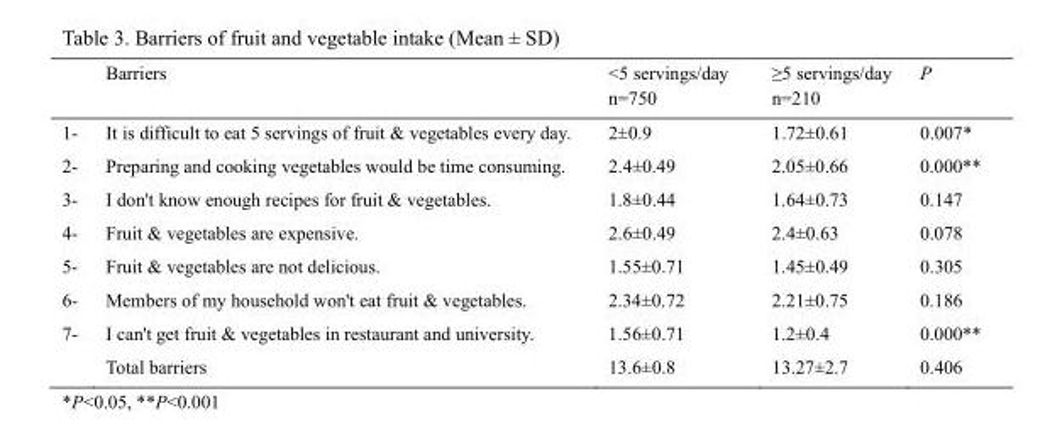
<table><thead><tr><td></td><td>Barriers</td><td>&lt;5 servings/day n=750</td><td>≥5 servings/day n=210</td><td>P</td></tr></thead><tbody><tr><td>1-</td><td>It is difficult to eat 5 servings of fruit &amp; vegetables every day.</td><td>2±0.9</td><td>1.72±0.61</td><td>0.007*</td></tr><tr><td>2-</td><td>Preparing and cooking vegetables would be time consuming.</td><td>2.4±0.49</td><td>2.05±0.66</td><td>0.000**</td></tr><tr><td>3-</td><td>I don&#x27;t know enough recipes for fruit &amp; vegetables.</td><td>1.8±0.44</td><td>1.64±0.73</td><td>0.147</td></tr><tr><td>4-</td><td>Fruit &amp; vegetables are expensive.</td><td>2.6±0.49</td><td>2.4±0.63</td><td>0.078</td></tr><tr><td>5-</td><td>Fruit &amp; vegetables are not delicious.</td><td>1.55±0.71</td><td>1.45±0.49</td><td>0.305</td></tr><tr><td>6-</td><td>Members of my household won&#x27;t eat fruit &amp; vegetables.</td><td>2.34±0.72</td><td>2.21±0.75</td><td>0.186</td></tr><tr><td rowspan="2">7-</td><td>I can&#x27;t get fruit &amp; vegetables in restaurant and university.</td><td>1.56±0.71</td><td>1.2±0.4</td><td>0.000**</td></tr><tr><td>Total barriers</td><td>13.6±0.8</td><td>13.27±2.7</td><td>0.406</td></tr></tbody></table>